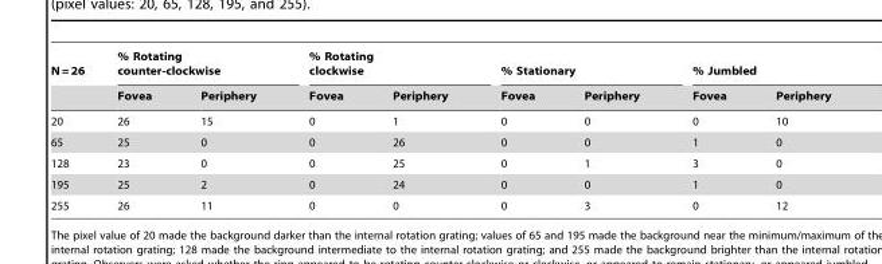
<table><thead><tr><td rowspan="2">N = 26</td><td colspan="2">% Rotating counter-clockwise</td><td colspan="2">% Rotating clockwise</td><td colspan="2">% Stationary</td><td colspan="2">% Jumbled</td></tr><tr><td>Fovea</td><td>Periphery</td><td>Fovea</td><td>Periphery</td><td>Fovea</td><td>Periphery</td><td>Fovea</td><td>Periphery</td></tr></thead><tbody><tr><td>20</td><td>26</td><td>15</td><td>0</td><td>1</td><td>0</td><td>0</td><td>0</td><td>10</td></tr><tr><td>65</td><td>25</td><td>0</td><td>0</td><td>26</td><td>0</td><td>0</td><td>1</td><td>0</td></tr><tr><td>128</td><td>23</td><td>0</td><td>0</td><td>25</td><td>0</td><td>1</td><td>3</td><td>0</td></tr><tr><td>195</td><td>25</td><td>2</td><td>0</td><td>24</td><td>0</td><td>0</td><td>1</td><td>0</td></tr><tr><td>255</td><td>26</td><td>11</td><td>0</td><td>0</td><td>0</td><td>3</td><td>0</td><td>12</td></tr></tbody></table>